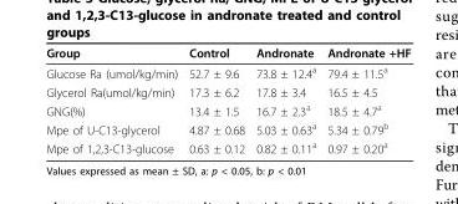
<table><thead><tr><td>Group</td><td>Control</td><td>Andronate</td><td>Andronate +HF</td></tr></thead><tbody><tr><td>Glucose Ra (umol/kg/min)</td><td>52.7 ± 9.6</td><td>73.8 ± 12.4<sup>a</sup></td><td>79.4 ± 11.5<sup>a</sup></td></tr><tr><td>Glycerol Ra(umol/kg/min)</td><td>17.3 ± 6.2</td><td>17.8 ± 3.4</td><td>16.5 ± 4.5</td></tr><tr><td>GNG(%)</td><td>13.4 ± 1.5</td><td>16.7 ± 2.3<sup>a</sup></td><td>18.5 ± 4.7<sup>a</sup></td></tr><tr><td>Mpe of U-C13-glycerol</td><td>4.87 ± 0.68</td><td>5.03 ± 0.63<sup>a</sup></td><td>5.34 ± 0.79<sup>b</sup></td></tr><tr><td>Mpe of 1,2,3-C13-glucose</td><td>0.63 ± 0.12</td><td>0.82 ± 0.11<sup>a</sup></td><td>0.97 ± 0.20<sup>a</sup></td></tr></tbody></table>